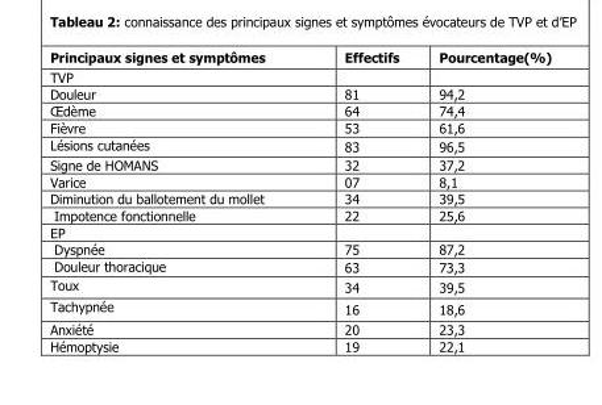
<table><thead><tr><td>Principaux signes et symptômes</td><td>Effectifs</td><td>Pourcentage(%)</td></tr></thead><tbody><tr><td colspan="3">TVP</td></tr><tr><td>Douleur</td><td>81</td><td>94,2</td></tr><tr><td>Œdème</td><td>64</td><td>74,4</td></tr><tr><td>Fièvre</td><td>53</td><td>61,6</td></tr><tr><td>Lésions cutanées</td><td>83</td><td>96,5</td></tr><tr><td>Signe de HOMANS</td><td>32</td><td>37,2</td></tr><tr><td>Varice</td><td>07</td><td>8,1</td></tr><tr><td>Diminution du ballotement du mollet</td><td>34</td><td>39,5</td></tr><tr><td>Impotence fonctionnelle</td><td>22</td><td>25,6</td></tr><tr><td colspan="3">EP</td></tr><tr><td>Dyspnée</td><td>75</td><td>87,2</td></tr><tr><td>Douleur thoracique</td><td>63</td><td>73,3</td></tr><tr><td>Toux</td><td>34</td><td>39,5</td></tr><tr><td>Tachypnée</td><td>16</td><td>18,6</td></tr><tr><td>Anxiété</td><td>20</td><td>23,3</td></tr><tr><td>Hémoptysie</td><td>19</td><td>22,1</td></tr></tbody></table>